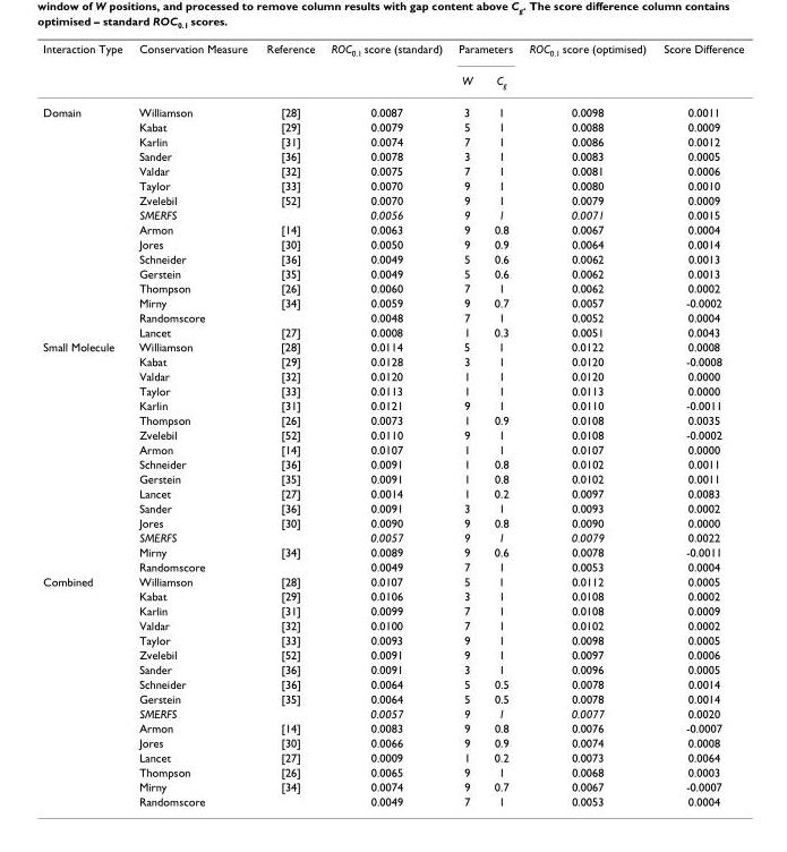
<table><thead><tr><td rowspan="2">Interaction Type</td><td rowspan="2">Conservation Measure</td><td rowspan="2">Reference</td><td rowspan="2">ROC<sub>0.1</sub> score (standard)</td><td colspan="2">Parameters</td><td rowspan="2">ROC<sub>0.1</sub> score (optimised)</td><td rowspan="2">Score Difference</td></tr><tr><td>W</td><td>C<sub>g</sub></td></tr></thead><tbody><tr><td rowspan="16">Domain</td><td>Williamson</td><td>[28]</td><td>0.0087</td><td>3</td><td>1</td><td>0.0098</td><td>0.0011</td></tr><tr><td>Kabat</td><td>[29]</td><td>0.0079</td><td>5</td><td>1</td><td>0.0088</td><td>0.0009</td></tr><tr><td>Karlin</td><td>[31]</td><td>0.0074</td><td>7</td><td>1</td><td>0.0086</td><td>0.0012</td></tr><tr><td>Sander</td><td>[36]</td><td>0.0078</td><td>3</td><td>1</td><td>0.0083</td><td>0.0005</td></tr><tr><td>Valdar</td><td>[32]</td><td>0.0075</td><td>7</td><td>1</td><td>0.0081</td><td>0.0006</td></tr><tr><td>Taylor</td><td>[33]</td><td>0.0070</td><td>9</td><td>1</td><td>0.0080</td><td>0.0010</td></tr><tr><td>Zvelebil</td><td>[52]</td><td>0.0070</td><td>9</td><td>1</td><td>0.0079</td><td>0.0009</td></tr><tr><td>SMERFS</td><td></td><td>0.0056</td><td>9</td><td>1</td><td>0.0071</td><td>0.0015</td></tr><tr><td>Armon</td><td>[14]</td><td>0.0063</td><td>9</td><td>0.8</td><td>0.0067</td><td>0.0004</td></tr><tr><td>Jores</td><td>[30]</td><td>0.0050</td><td>9</td><td>0.9</td><td>0.0064</td><td>0.0014</td></tr><tr><td>Schneider</td><td>[36]</td><td>0.0049</td><td>5</td><td>0.6</td><td>0.0062</td><td>0.0013</td></tr><tr><td>Gerstein</td><td>[35]</td><td>0.0049</td><td>5</td><td>0.6</td><td>0.0062</td><td>0.0013</td></tr><tr><td>Thompson</td><td>[26]</td><td>0.0060</td><td>7</td><td>1</td><td>0.0062</td><td>0.0002</td></tr><tr><td>Mirny</td><td>[34]</td><td>0.0059</td><td>9</td><td>0.7</td><td>0.0057</td><td>-0.0002</td></tr><tr><td>Randomscore</td><td></td><td>0.0048</td><td>7</td><td>1</td><td>0.0052</td><td>0.0004</td></tr><tr><td>Lancet</td><td>[27]</td><td>0.0008</td><td>1</td><td>0.3</td><td>0.0051</td><td>0.0043</td></tr><tr><td rowspan="16">Small Molecule</td><td>Williamson</td><td>[28]</td><td>0.0114</td><td>5</td><td>1</td><td>0.0122</td><td>0.0008</td></tr><tr><td>Kabat</td><td>[29]</td><td>0.0128</td><td>3</td><td>1</td><td>0.0120</td><td>-0.0008</td></tr><tr><td>Valdar</td><td>[32]</td><td>0.0120</td><td>1</td><td>1</td><td>0.0120</td><td>0.0000</td></tr><tr><td>Taylor</td><td>[33]</td><td>0.0113</td><td>1</td><td>1</td><td>0.0113</td><td>0.0000</td></tr><tr><td>Karlin</td><td>[31]</td><td>0.0121</td><td>9</td><td>1</td><td>0.0110</td><td>-0.0011</td></tr><tr><td>Thompson</td><td>[26]</td><td>0.0073</td><td>1</td><td>0.9</td><td>0.0108</td><td>0.0035</td></tr><tr><td>Zvelebil</td><td>[52]</td><td>0.0110</td><td>9</td><td>1</td><td>0.0108</td><td>-0.0002</td></tr><tr><td>Armon</td><td>[14]</td><td>0.0107</td><td>1</td><td>1</td><td>0.0107</td><td>0.0000</td></tr><tr><td>Schneider</td><td>[36]</td><td>0.0091</td><td>1</td><td>0.8</td><td>0.0102</td><td>0.0011</td></tr><tr><td>Gerstein</td><td>[35]</td><td>0.0091</td><td>1</td><td>0.8</td><td>0.0102</td><td>0.0011</td></tr><tr><td>Lancet</td><td>[27]</td><td>0.0014</td><td>1</td><td>0.2</td><td>0.0097</td><td>0.0083</td></tr><tr><td>Sander</td><td>[36]</td><td>0.0091</td><td>3</td><td>1</td><td>0.0093</td><td>0.0002</td></tr><tr><td>Jores</td><td>[30]</td><td>0.0090</td><td>9</td><td>0.8</td><td>0.0090</td><td>0.0000</td></tr><tr><td>SMERFS</td><td></td><td>0.0057</td><td>9</td><td>1</td><td>0.0079</td><td>0.0022</td></tr><tr><td>Mirny</td><td>[34]</td><td>0.0089</td><td>9</td><td>0.6</td><td>0.0078</td><td>-0.0011</td></tr><tr><td>Randomscore</td><td></td><td>0.0049</td><td>7</td><td>1</td><td>0.0053</td><td>0.0004</td></tr><tr><td rowspan="16">Combined</td><td>Williamson</td><td>[28]</td><td>0.0107</td><td>5</td><td>1</td><td>0.0112</td><td>0.0005</td></tr><tr><td>Kabat</td><td>[29]</td><td>0.0106</td><td>3</td><td>1</td><td>0.0108</td><td>0.0002</td></tr><tr><td>Karlin</td><td>[31]</td><td>0.0099</td><td>7</td><td>1</td><td>0.0108</td><td>0.0009</td></tr><tr><td>Valdar</td><td>[32]</td><td>0.0100</td><td>7</td><td>1</td><td>0.0102</td><td>0.0002</td></tr><tr><td>Taylor</td><td>[33]</td><td>0.0093</td><td>9</td><td>1</td><td>0.0098</td><td>0.0005</td></tr><tr><td>Zvelebil</td><td>[52]</td><td>0.0091</td><td>9</td><td>1</td><td>0.0097</td><td>0.0006</td></tr><tr><td>Sander</td><td>[36]</td><td>0.0091</td><td>3</td><td>1</td><td>0.0096</td><td>0.0005</td></tr><tr><td>Schneider</td><td>[36]</td><td>0.0064</td><td>5</td><td>0.5</td><td>0.0078</td><td>0.0014</td></tr><tr><td>Gerstein</td><td>[35]</td><td>0.0064</td><td>5</td><td>0.5</td><td>0.0078</td><td>0.0014</td></tr><tr><td>SMERFS</td><td></td><td>0.0057</td><td>9</td><td>1</td><td>0.0077</td><td>0.0020</td></tr><tr><td>Armon</td><td>[14]</td><td>0.0083</td><td>9</td><td>0.8</td><td>0.0076</td><td>-0.0007</td></tr><tr><td>Jores</td><td>[30]</td><td>0.0066</td><td>9</td><td>0.9</td><td>0.0074</td><td>0.0008</td></tr><tr><td>Lancet</td><td>[27]</td><td>0.0009</td><td>1</td><td>0.2</td><td>0.0073</td><td>0.0064</td></tr><tr><td>Thompson</td><td>[26]</td><td>0.0065</td><td>9</td><td>1</td><td>0.0068</td><td>0.0003</td></tr><tr><td>Mirny</td><td>[34]</td><td>0.0074</td><td>9</td><td>0.7</td><td>0.0067</td><td>-0.0007</td></tr><tr><td>Randomscore</td><td></td><td>0.0049</td><td>7</td><td>1</td><td>0.0053</td><td>0.0004</td></tr></tbody></table>